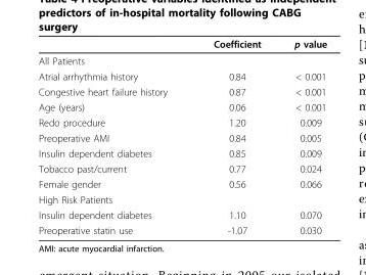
<table><thead><tr><td></td><td>Coefficient</td><td>p value</td></tr></thead><tbody><tr><td colspan="3">All Patients</td></tr><tr><td>Atrial arrhythmia history</td><td>0.84</td><td>&lt; 0.001</td></tr><tr><td>Congestive heart failure history</td><td>0.87</td><td>&lt; 0.001</td></tr><tr><td>Age (years)</td><td>0.06</td><td>&lt; 0.001</td></tr><tr><td>Redo procedure</td><td>1.20</td><td>0.009</td></tr><tr><td>Preoperative AMI</td><td>0.84</td><td>0.005</td></tr><tr><td>Insulin dependent diabetes</td><td>0.85</td><td>0.009</td></tr><tr><td>Tobacco past/current</td><td>0.77</td><td>0.024</td></tr><tr><td>Female gender</td><td>0.56</td><td>0.066</td></tr><tr><td colspan="3">High Risk Patients</td></tr><tr><td>Insulin dependent diabetes</td><td>1.10</td><td>0.070</td></tr><tr><td>Preoperative statin use</td><td>-1.07</td><td>0.030</td></tr></tbody></table>